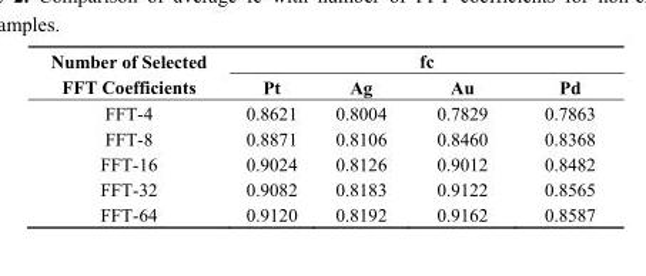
<table><thead><tr><td rowspan="2">Number of Selected FFT Coefficients</td><td colspan="4">fc</td></tr><tr><td>Pt</td><td>Ag</td><td>Au</td><td>Pd</td></tr></thead><tbody><tr><td>FFT-4</td><td>0.8621</td><td>0.8004</td><td>0.7829</td><td>0.7863</td></tr><tr><td>FFT-8</td><td>0.8871</td><td>0.8106</td><td>0.8460</td><td>0.8368</td></tr><tr><td>FFT-16</td><td>0.9024</td><td>0.8126</td><td>0.9012</td><td>0.8482</td></tr><tr><td>FFT-32</td><td>0.9082</td><td>0.8183</td><td>0.9122</td><td>0.8565</td></tr><tr><td>FFT-64</td><td>0.9120</td><td>0.8192</td><td>0.9162</td><td>0.8587</td></tr></tbody></table>